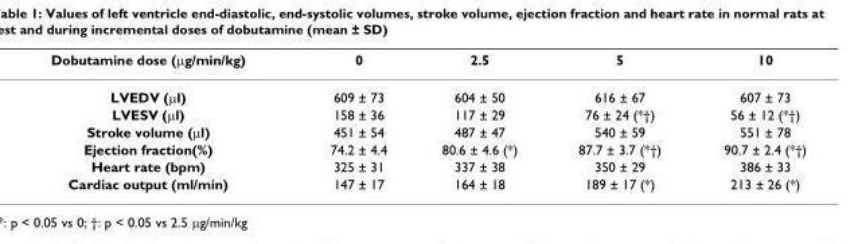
<table><thead><tr><td>Dobutamine dose (μg/min/kg)</td><td>0</td><td>2.5</td><td>5</td><td>10</td></tr></thead><tbody><tr><td>LVEDV (μl)</td><td>609 ± 73</td><td>604 ± 50</td><td>616 ± 67</td><td>607 ± 73</td></tr><tr><td>LVESV (μl)</td><td>158 ± 36</td><td>117 ± 29</td><td>76 ± 24 (*†)</td><td>56 ± 12 (*†)</td></tr><tr><td>Stroke volume (μl)</td><td>451 ± 54</td><td>487 ± 47</td><td>540 ± 59</td><td>551 ± 78</td></tr><tr><td>Ejection fraction(%)</td><td>74.2 ± 4.4</td><td>80.6 ± 4.6 (*)</td><td>87.7 ± 3.7 (*†)</td><td>90.7 ± 2.4 (*†)</td></tr><tr><td>Heart rate (bpm)</td><td>325 ± 31</td><td>337 ± 38</td><td>350 ± 29</td><td>386 ± 33</td></tr><tr><td>Cardiac output (ml/min)</td><td>147 ± 17</td><td>164 ± 18</td><td>189 ± 17 (*)</td><td>213 ± 26 (*)</td></tr></tbody></table>